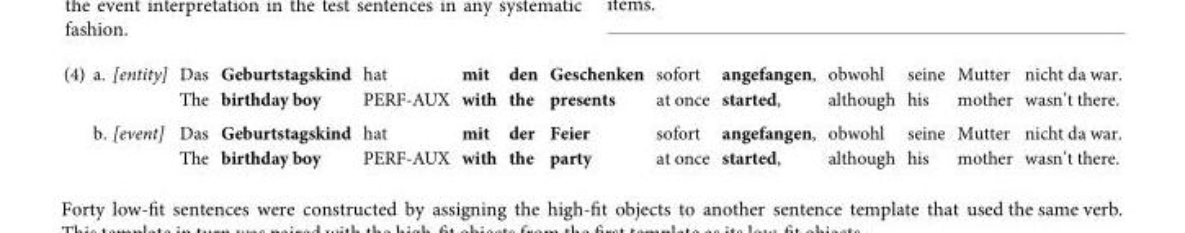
<table><tbody><tr><td rowspan="4">(4)</td><td>a.</td><td>[entity]</td><td>Das</td><td>Geburtstagskind</td><td>hat</td><td>mit</td><td>den</td><td>Geschenken</td><td>sofort</td><td>angefangen,</td><td>obwohl</td><td>seine</td><td>Mutter</td><td>nicht da war.</td></tr><tr><td></td><td></td><td>The</td><td>birthday boy</td><td>PERF-AUX</td><td>with</td><td>the</td><td>presents</td><td>at once</td><td>started,</td><td>although</td><td>his</td><td>mother</td><td>wasn’t there.</td></tr><tr><td>b.</td><td>[event]</td><td>Das</td><td>Geburtstagskind</td><td>hat</td><td>mit</td><td>der</td><td>Feier</td><td>sofort</td><td>angefangen,</td><td>obwohl</td><td>seine</td><td>Mutter</td><td>nicht da war.</td></tr><tr><td></td><td></td><td>The</td><td>birthday boy</td><td>PERF-AUX</td><td>with</td><td>the</td><td>party</td><td>at once</td><td>started,</td><td>although</td><td>his</td><td>mother</td><td>wasn’t there.</td></tr></tbody></table>